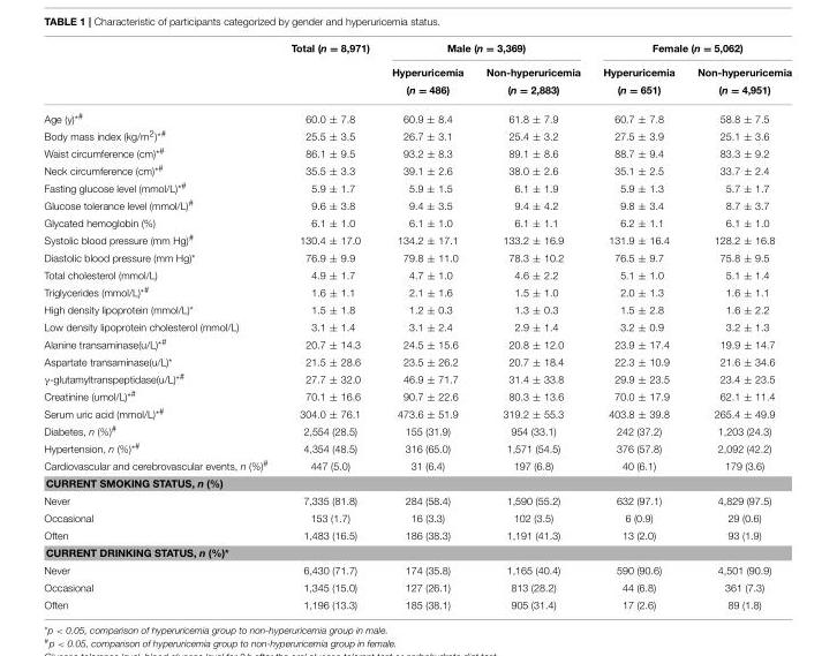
<table><thead><tr><td rowspan="2"></td><td rowspan="2">Total (n = 8,971)</td><td colspan="2">Male (n = 3,369)</td><td colspan="2">Female (n = 5,062)</td></tr><tr><td>Hyperuricemia (n = 486)</td><td>Non-hyperuricemia (n = 2,883)</td><td>Hyperuricemia (n = 651)</td><td>Non-hyperuricemia (n = 4,951)</td></tr></thead><tbody><tr><td>Age (y)<sup>*#</sup></td><td>60.0 ± 7.8</td><td>60.9 ± 8.4</td><td>61.8 ± 7.9</td><td>60.7 ± 7.8</td><td>58.8 ± 7.5</td></tr><tr><td>Body mass index (kg/m<sup>2</sup>)<sup>*#</sup></td><td>25.5 ± 3.5</td><td>26.7 ± 3.1</td><td>25.4 ± 3.2</td><td>27.5 ± 3.9</td><td>25.1 ± 3.6</td></tr><tr><td>Waist circumference (cm)<sup>*#</sup></td><td>86.1 ± 9.5</td><td>93.2 ± 8.3</td><td>89.1 ± 8.6</td><td>88.7 ± 9.4</td><td>83.3 ± 9.2</td></tr><tr><td>Neck circumference (cm)<sup>*#</sup></td><td>35.5 ± 3.3</td><td>39.1 ± 2.6</td><td>38.0 ± 2.6</td><td>35.1 ± 2.5</td><td>33.7 ± 2.4</td></tr><tr><td>Fasting glucose level (mmol/L)<sup>*#</sup></td><td>5.9 ± 1.7</td><td>5.9 ± 1.5</td><td>6.1 ± 1.9</td><td>5.9 ± 1.3</td><td>5.7 ± 1.7</td></tr><tr><td>Glucose tolerance level (mmol/L)<sup>#</sup></td><td>9.6 ± 3.8</td><td>9.4 ± 3.5</td><td>9.4 ± 4.2</td><td>9.8 ± 3.4</td><td>8.7 ± 3.7</td></tr><tr><td>Glycated hemoglobin (%)</td><td>6.1 ± 1.0</td><td>6.1 ± 1.0</td><td>6.1 ± 1.1</td><td>6.2 ± 1.1</td><td>6.1 ± 1.0</td></tr><tr><td>Systolic blood pressure (mm Hg)<sup>#</sup></td><td>130.4 ± 17.0</td><td>134.2 ± 17.1</td><td>133.2 ± 16.9</td><td>131.9 ± 16.4</td><td>128.2 ± 16.8</td></tr><tr><td>Diastolic blood pressure (mm Hg)*</td><td>76.9 ± 9.9</td><td>79.8 ± 11.0</td><td>78.3 ± 10.2</td><td>76.5 ± 9.7</td><td>75.8 ± 9.5</td></tr><tr><td>Total cholesterol (mmol/L)</td><td>4.9 ± 1.7</td><td>4.7 ± 1.0</td><td>4.6 ± 2.2</td><td>5.1 ± 1.0</td><td>5.1 ± 1.4</td></tr><tr><td>Triglycerides (mmol/L)<sup>*#</sup></td><td>1.6 ± 1.1</td><td>2.1 ± 1.6</td><td>1.5 ± 1.0</td><td>2.0 ± 1.3</td><td>1.6 ± 1.1</td></tr><tr><td>High density lipoprotein (mmol/L)*</td><td>1.5 ± 1.8</td><td>1.2 ± 0.3</td><td>1.3 ± 0.3</td><td>1.5 ± 2.8</td><td>1.6 ± 2.2</td></tr><tr><td>Low density lipoprotein cholesterol (mmol/L)</td><td>3.1 ± 1.4</td><td>3.1 ± 2.4</td><td>2.9 ± 1.4</td><td>3.2 ± 0.9</td><td>3.2 ± 1.3</td></tr><tr><td>Alanine transaminase(u/L)<sup>*#</sup></td><td>20.7 ± 14.3</td><td>24.5 ± 15.6</td><td>20.8 ± 12.0</td><td>23.9 ± 17.4</td><td>19.9 ± 14.7</td></tr><tr><td>Aspartate transaminase(u/L)*</td><td>21.5 ± 28.6</td><td>23.5 ± 26.2</td><td>20.7 ± 18.4</td><td>22.3 ± 10.9</td><td>21.6 ± 34.6</td></tr><tr><td>γ-glutamyltranspeptidase(u/L)<sup>*#</sup></td><td>27.7 ± 32.0</td><td>46.9 ± 71.7</td><td>31.4 ± 33.8</td><td>29.9 ± 23.5</td><td>23.4 ± 23.5</td></tr><tr><td>Creatinine (umol/L)<sup>*#</sup></td><td>70.1 ± 16.6</td><td>90.7 ± 22.6</td><td>80.3 ± 13.6</td><td>70.0 ± 17.9</td><td>62.1 ± 11.4</td></tr><tr><td>Serum uric acid (mmol/L)<sup>*#</sup></td><td>304.0 ± 76.1</td><td>473.6 ± 51.9</td><td>319.2 ± 55.3</td><td>403.8 ± 39.8</td><td>265.4 ± 49.9</td></tr><tr><td>Diabetes, n (%)<sup>#</sup></td><td>2,554 (28.5)</td><td>155 (31.9)</td><td>954 (33.1)</td><td>242 (37.2)</td><td>1,203 (24.3)</td></tr><tr><td>Hypertension, n (%)<sup>*#</sup></td><td>4,354 (48.5)</td><td>316 (65.0)</td><td>1,571 (54.5)</td><td>376 (57.8)</td><td>2,092 (42.2)</td></tr><tr><td>Cardiovascular and cerebrovascular events, n (%)<sup>#</sup></td><td>447 (5.0)</td><td>31 (6.4)</td><td>197 (6.8)</td><td>40 (6.1)</td><td>179 (3.6)</td></tr><tr><td colspan="6">CURRENT SMOKING STATUS, n (%)</td></tr><tr><td>Never</td><td>7,335 (81.8)</td><td>284 (58.4)</td><td>1,590 (55.2)</td><td>632 (97.1)</td><td>4,829 (97.5)</td></tr><tr><td>Occasional</td><td>153 (1.7)</td><td>16 (3.3)</td><td>102 (3.5)</td><td>6 (0.9)</td><td>29 (0.6)</td></tr><tr><td>Often</td><td>1,483 (16.5)</td><td>186 (38.3)</td><td>1,191 (41.3)</td><td>13 (2.0)</td><td>93 (1.9)</td></tr><tr><td colspan="6">CURRENT DRINKING STATUS, n (%)*</td></tr><tr><td>Never</td><td>6,430 (71.7)</td><td>174 (35.8)</td><td>1,165 (40.4)</td><td>590 (90.6)</td><td>4,501 (90.9)</td></tr><tr><td>Occasional</td><td>1,345 (15.0)</td><td>127 (26.1)</td><td>813 (28.2)</td><td>44 (6.8)</td><td>361 (7.3)</td></tr><tr><td>Often</td><td>1,196 (13.3)</td><td>185 (38.1)</td><td>905 (31.4)</td><td>17 (2.6)</td><td>89 (1.8)</td></tr></tbody></table>